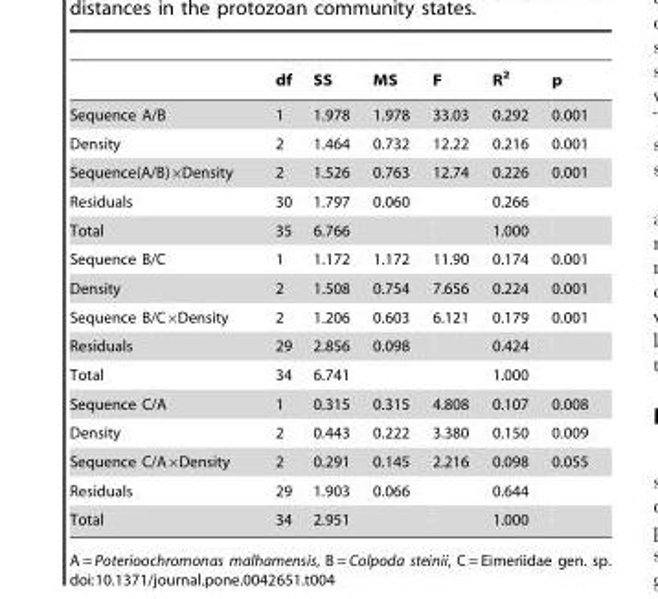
<table><thead><tr><td></td><td>df</td><td>SS</td><td>MS</td><td>F</td><td>R<sup>2</sup></td><td>p</td></tr></thead><tbody><tr><td>Sequence A/B</td><td>1</td><td>1.978</td><td>1.978</td><td>33.03</td><td>0.292</td><td>0.001</td></tr><tr><td>Density</td><td>2</td><td>1.464</td><td>0.732</td><td>12.22</td><td>0.216</td><td>0.001</td></tr><tr><td>Sequence(A/B)×Density</td><td>2</td><td>1.526</td><td>0.763</td><td>12.74</td><td>0.226</td><td>0.001</td></tr><tr><td>Residuals</td><td>30</td><td>1.797</td><td>0.060</td><td></td><td>0.266</td><td></td></tr><tr><td>Total</td><td>35</td><td>6.766</td><td></td><td></td><td>1.000</td><td></td></tr><tr><td>Sequence B/C</td><td>1</td><td>1.172</td><td>1.172</td><td>11.90</td><td>0.174</td><td>0.001</td></tr><tr><td>Density</td><td>2</td><td>1.508</td><td>0.754</td><td>7.656</td><td>0.224</td><td>0.001</td></tr><tr><td>Sequence B/C×Density</td><td>2</td><td>1.206</td><td>0.603</td><td>6.121</td><td>0.179</td><td>0.001</td></tr><tr><td>Residuals</td><td>29</td><td>2.856</td><td>0.098</td><td></td><td>0.424</td><td></td></tr><tr><td>Total</td><td>34</td><td>6.741</td><td></td><td></td><td>1.000</td><td></td></tr><tr><td>Sequence C/A</td><td>1</td><td>0.315</td><td>0.315</td><td>4.808</td><td>0.107</td><td>0.008</td></tr><tr><td>Density</td><td>2</td><td>0.443</td><td>0.222</td><td>3.380</td><td>0.150</td><td>0.009</td></tr><tr><td>Sequence C/A×Density</td><td>2</td><td>0.291</td><td>0.145</td><td>2.216</td><td>0.098</td><td>0.055</td></tr><tr><td>Residuals</td><td>29</td><td>1.903</td><td>0.066</td><td></td><td>0.644</td><td></td></tr><tr><td>Total</td><td>34</td><td>2.951</td><td></td><td></td><td>1.000</td><td></td></tr></tbody></table>